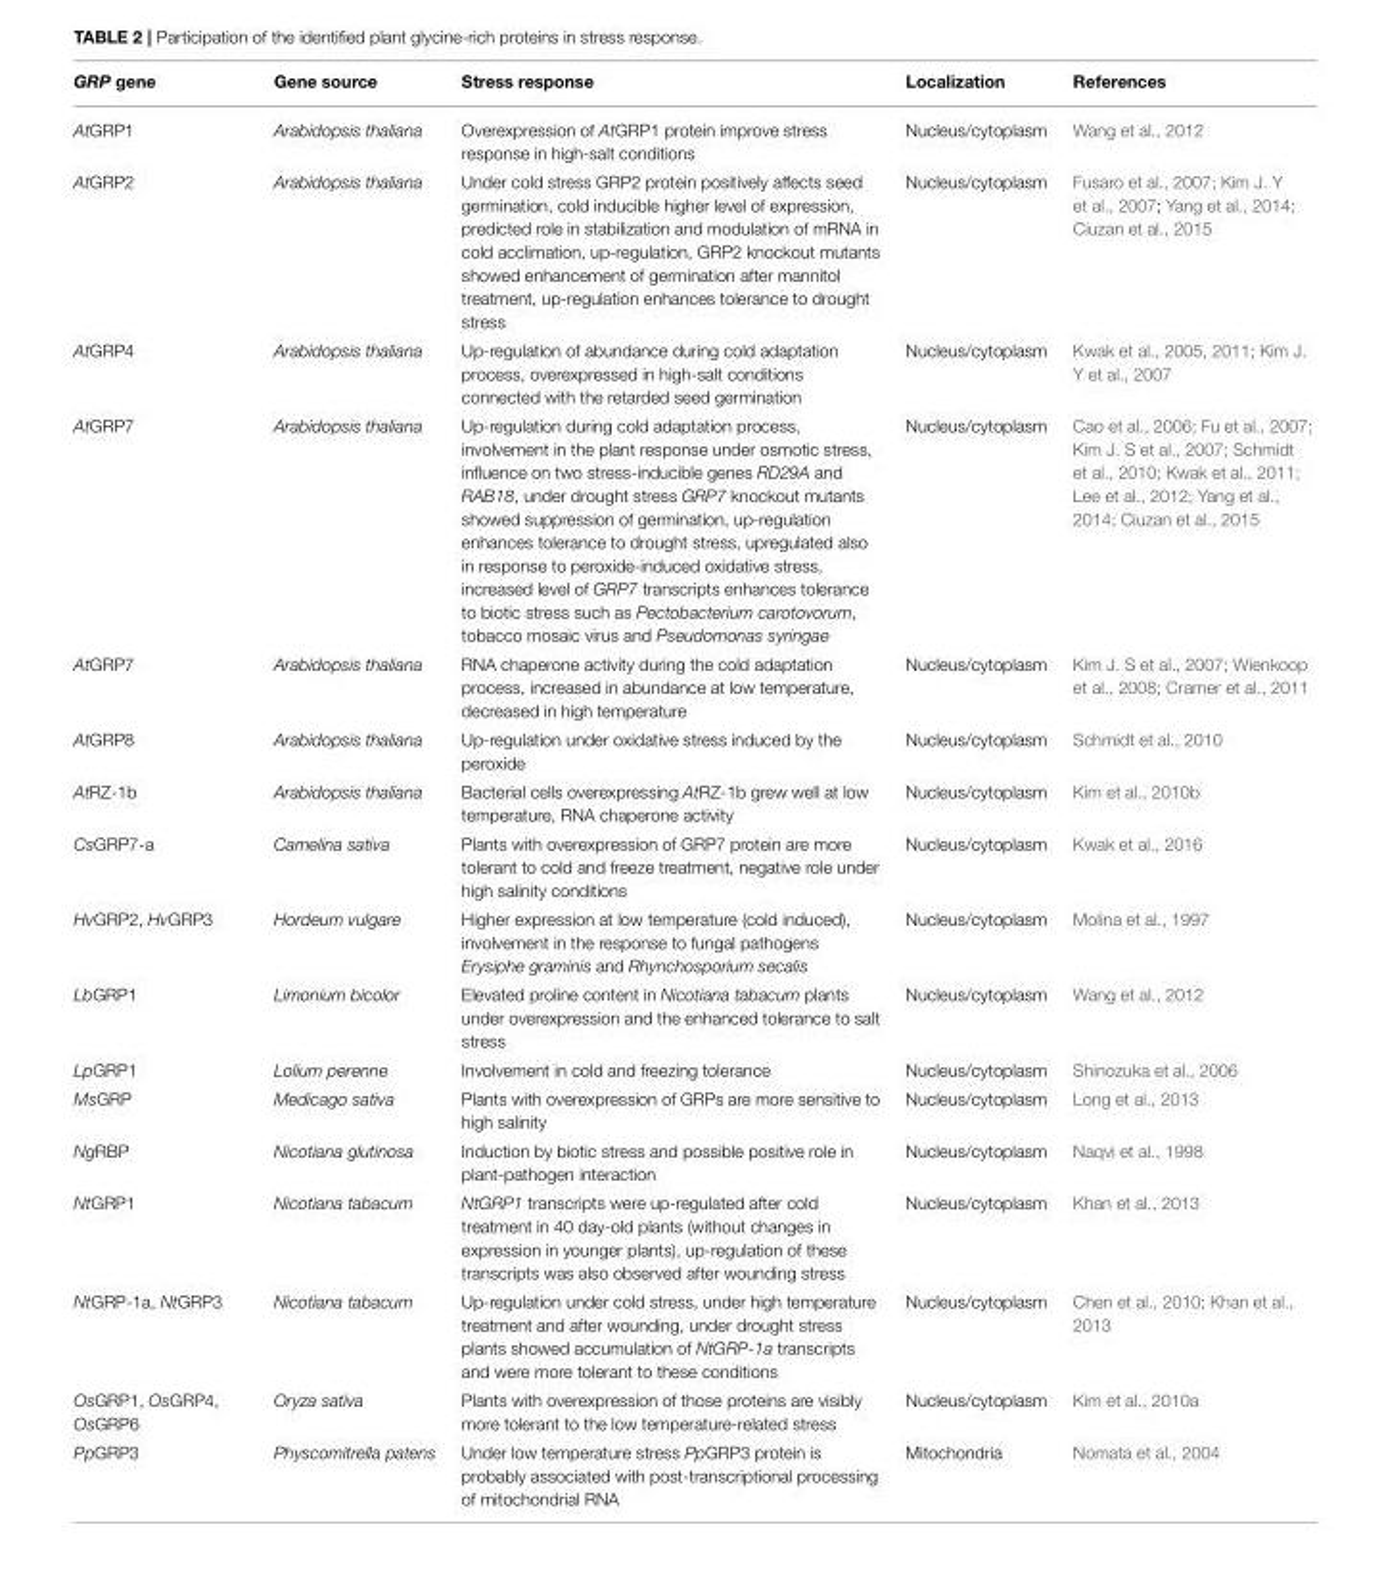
<table><thead><tr><td>GRP gene</td><td>Gene source</td><td>Stress response</td><td>Localization</td><td>References</td></tr></thead><tbody><tr><td>AtGRP1</td><td>Arabidopsis thaliana</td><td>Overexpression of AtGRP1 protein improve stress response in high-salt conditions</td><td>Nucleus/cytoplasm</td><td>Wang et al., 2012</td></tr><tr><td>AtGRP2</td><td>Arabidopsis thaliana</td><td>Under cold stress GRP2 protein positively affects seed germination, cold inducible higher level of expression, predicted role in stabilization and modulation of mRNA in cold acclimation, up-regulation, GRP2 knockout mutants showed enhancement of germination after mannitol treatment, up-regulation enhances tolerance to drought stress</td><td>Nucleus/cytoplasm</td><td>Fusaro et al., 2007; Kim J. Y et al., 2007; Yang et al., 2014; Ciuzan et al., 2015</td></tr><tr><td>AtGRP4</td><td>Arabidopsis thaliana</td><td>Up-regulation of abundance during cold adaptation process, overexpressed in high-salt conditions connected with the retarded seed germination</td><td>Nucleus/cytoplasm</td><td>Kwak et al., 2005, 2011; Kim J. Y et al., 2007</td></tr><tr><td>AtGRP7</td><td>Arabidopsis thaliana</td><td>Up-regulation during cold adaptation process, involvement in the plant response under osmotic stress, influence on two stress-inducible genes RD29A and RAB18, under drought stress GRP7 knockout mutants showed suppression of germination, up-regulation enhances tolerance to drought stress, upregulated also in response to peroxide-induced oxidative stress, increased level of GRP7 transcripts enhances tolerance to biotic stress such as Pectobacterium carotovorum, tobacco mosaic virus and Pseudomonas syringae</td><td>Nucleus/cytoplasm</td><td>Cao et al., 2006; Fu et al., 2007; Kim J. S et al., 2007; Schmidt et al., 2010; Kwak et al., 2011; Lee et al., 2012; Yang et al., 2014; Ciuzan et al., 2015</td></tr><tr><td>AtGRP7</td><td>Arabidopsis thaliana</td><td>RNA chaperone activity during the cold adaptation process, increased in abundance at low temperature, decreased in high temperature</td><td>Nucleus/cytoplasm</td><td>Kim J. S et al., 2007; Wienkoop et al., 2008; Cramer et al., 2011</td></tr><tr><td>AtGRP8</td><td>Arabidopsis thaliana</td><td>Up-regulation under oxidative stress induced by the peroxide</td><td>Nucleus/cytoplasm</td><td>Schmidt et al., 2010</td></tr><tr><td>AtRZ-1b</td><td>Arabidopsis thaliana</td><td>Bacterial cells overexpressing AtRZ-1b grew well at low temperature, RNA chaperone activity</td><td>Nucleus/cytoplasm</td><td>Kim et al., 2010b</td></tr><tr><td>CsGRP7-a</td><td>Camelina sativa</td><td>Plants with overexpression of GRP7 protein are more tolerant to cold and freeze treatment, negative role under high salinity conditions</td><td>Nucleus/cytoplasm</td><td>Kwak et al., 2016</td></tr><tr><td>HvGRP2, HvGRP3</td><td>Hordeum vulgare</td><td>Higher expression at low temperature (cold induced), involvement in the response to fungal pathogens Erysiphe graminis and Rhynchosporium secalis</td><td>Nucleus/cytoplasm</td><td>Molina et al., 1997</td></tr><tr><td>LbGRP1</td><td>Limonium bicolor</td><td>Elevated proline content in Nicotiana tabacum plants under overexpression and the enhanced tolerance to salt stress</td><td>Nucleus/cytoplasm</td><td>Wang et al., 2012</td></tr><tr><td>LpGRP1</td><td>Lolium perenne</td><td>Involvement in cold and freezing tolerance</td><td>Nucleus/cytoplasm</td><td>Shinozuka et al., 2006</td></tr><tr><td>MsGRP</td><td>Medicago sativa</td><td>Plants with overexpression of GRPs are more sensitive to high salinity</td><td>Nucleus/cytoplasm</td><td>Long et al., 2013</td></tr><tr><td>NgRBP</td><td>Nicotiana glutinosa</td><td>Induction by biotic stress and possible positive role in plant-pathogen interaction</td><td>Nucleus/cytoplasm</td><td>Naqvi et al., 1998</td></tr><tr><td>NtGRP1</td><td>Nicotiana tabacum</td><td>NtGRP1 transcripts were up-regulated after cold treatment in 40 day-old plants (without changes in expression in younger plants), up-regulation of these transcripts was also observed after wounding stress</td><td>Nucleus/cytoplasm</td><td>Khan et al., 2013</td></tr><tr><td>NtGRP-1a, NtGRP3</td><td>Nicotiana tabacum</td><td>Up-regulation under cold stress, under high temperature treatment and after wounding, under drought stress plants showed accumulation of NtGRP-1a transcripts and were more tolerant to these conditions</td><td>Nucleus/cytoplasm</td><td>Chen et al., 2010; Khan et al., 2013</td></tr><tr><td>OsGRP1, OsGRP4, OsGRP6</td><td>Oryza sativa</td><td>Plants with overexpression of those proteins are visibly more tolerant to the low temperature-related stress</td><td>Nucleus/cytoplasm</td><td>Kim et al., 2010a</td></tr><tr><td>PpGRP3</td><td>Physcomitrella patens</td><td>Under low temperature stress PpGRP3 protein is probably associated with post-transcriptional processing of mitochondrial RNA</td><td>Mitochondria</td><td>Nomata et al., 2004</td></tr></tbody></table>